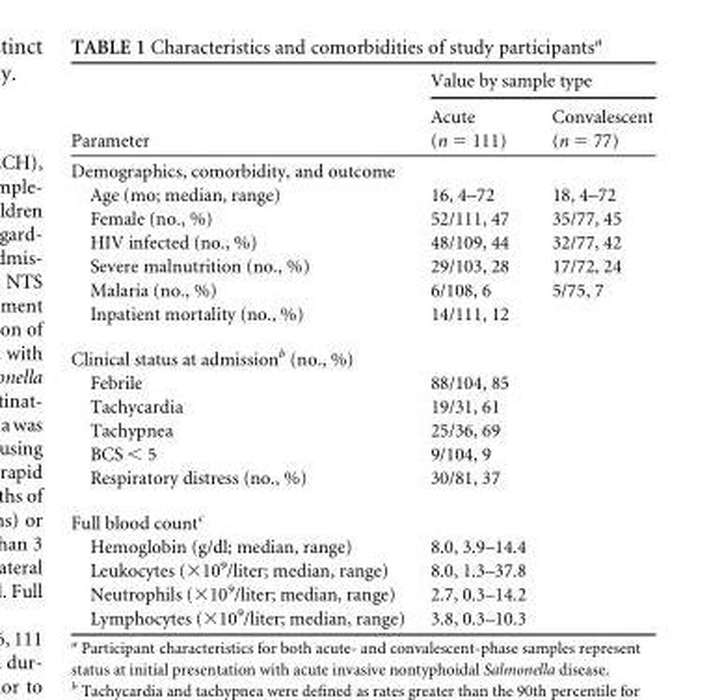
<table><thead><tr><td rowspan="2">Parameter</td><td colspan="2">Value by sample type</td></tr><tr><td>Acute (n = 111)</td><td>Convalescent (n = 77)</td></tr></thead><tbody><tr><td colspan="3">Demographics, comorbidity, and outcome</td></tr><tr><td>Age (mo; median, range)</td><td>16, 4–72</td><td>18, 4–72</td></tr><tr><td>Female (no., %)</td><td>52/111, 47</td><td>35/77, 45</td></tr><tr><td>HIV infected (no., %)</td><td>48/109, 44</td><td>32/77, 42</td></tr><tr><td>Severe malnutrition (no., %)</td><td>29/103, 28</td><td>17/72, 24</td></tr><tr><td>Malaria (no., %)</td><td>6/108, 6</td><td>5/75, 7</td></tr><tr><td>Inpatient mortality (no., %)</td><td>14/111, 12</td><td></td></tr><tr><td colspan="3">Clinical status at admission<sup>b</sup> (no., %)</td></tr><tr><td>Febrile</td><td>88/104, 85</td><td></td></tr><tr><td>Tachycardia</td><td>19/31, 61</td><td></td></tr><tr><td>Tachypnea</td><td>25/36, 69</td><td></td></tr><tr><td>BCS &lt; 5</td><td>9/104, 9</td><td></td></tr><tr><td>Respiratory distress (no., %)</td><td>30/81, 37</td><td></td></tr><tr><td colspan="3">Full blood count<sup>c</sup></td></tr><tr><td>Hemoglobin (g/dl; median, range)</td><td>8.0, 3.9–14.4</td><td></td></tr><tr><td>Leukocytes (×10<sup>9</sup>/liter; median, range)</td><td>8.0, 1.3–37.8</td><td></td></tr><tr><td>Neutrophils (×10<sup>9</sup>/liter; median, range)</td><td>2.7, 0.3–14.2</td><td></td></tr><tr><td>Lymphocytes (×10<sup>9</sup>/liter; median, range)</td><td>3.8, 0.3–10.3</td><td></td></tr></tbody></table>